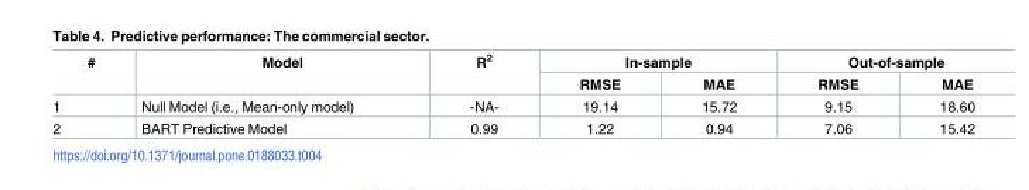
<table><thead><tr><td rowspan="2">#</td><td rowspan="2">Model</td><td rowspan="2">R<sup>2</sup></td><td colspan="2">In-sample</td><td colspan="2">Out-of-sample</td></tr><tr><td>RMSE</td><td>MAE</td><td>RMSE</td><td>MAE</td></tr></thead><tbody><tr><td>1</td><td>Null Model (i.e., Mean-only model)</td><td>-NA-</td><td>19.14</td><td>15.72</td><td>9.15</td><td>18.60</td></tr><tr><td>2</td><td>BART Predictive Model</td><td>0.99</td><td>1.22</td><td>0.94</td><td>7.06</td><td>15.42</td></tr></tbody></table>